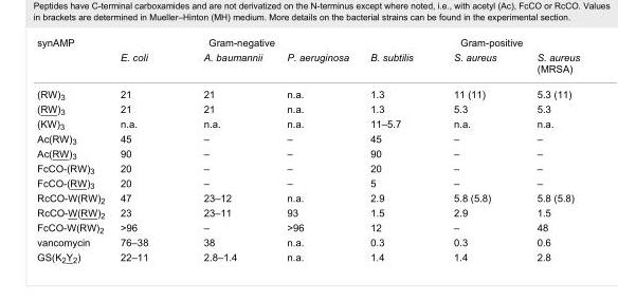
<table><tbody><tr><td rowspan="2">synAMP</td><td colspan="3">Gram-negative</td><td colspan="3">Gram-positive</td></tr><tr><td>E. coli</td><td>A. baumannii</td><td>P. aeruginosa</td><td>B. subtilis</td><td>S. aureus</td><td>S. aureus (MRSA)</td></tr><tr><td>(RW)<sub>3</sub></td><td>21</td><td>21</td><td>n.a.</td><td>1.3</td><td>11 (11)</td><td>5.3 (11)</td></tr><tr><td>(RW)<sub>3</sub></td><td>21</td><td>21</td><td>n.a.</td><td>1.3</td><td>5.3</td><td>5.3</td></tr><tr><td>(KW)<sub>3</sub></td><td>n.a.</td><td>n.a.</td><td>n.a.</td><td>11–5.7</td><td>n.a.</td><td>n.a.</td></tr><tr><td>Ac(RW)<sub>3</sub></td><td>45</td><td>–</td><td>–</td><td>45</td><td>–</td><td>–</td></tr><tr><td>Ac(RW)<sub>3</sub></td><td>90</td><td>–</td><td>–</td><td>90</td><td>–</td><td>–</td></tr><tr><td>FcCO-(RW)<sub>3</sub></td><td>20</td><td>–</td><td>–</td><td>20</td><td>–</td><td>–</td></tr><tr><td>FcCO-(RW)<sub>3</sub></td><td>20</td><td>–</td><td>–</td><td>5</td><td>–</td><td>–</td></tr><tr><td>RcCO-W(RW)<sub>2</sub></td><td>47</td><td>23–12</td><td>n.a.</td><td>2.9</td><td>5.8 (5.8)</td><td>5.8 (5.8)</td></tr><tr><td>RcCO-W(RW)<sub>2</sub></td><td>23</td><td>23–11</td><td>93</td><td>1.5</td><td>2.9</td><td>1.5</td></tr><tr><td>FcCO-W(RW)<sub>2</sub></td><td>&gt;96</td><td>–</td><td>&gt;96</td><td>12</td><td>–</td><td>48</td></tr><tr><td>vancomycin</td><td>76–38</td><td>38</td><td>n.a.</td><td>0.3</td><td>0.3</td><td>0.6</td></tr><tr><td>GS(K<sub>2</sub>Y<sub>2</sub>)</td><td>22–11</td><td>2.8–1.4</td><td>n.a.</td><td>1.4</td><td>1.4</td><td>2.8</td></tr></tbody></table>